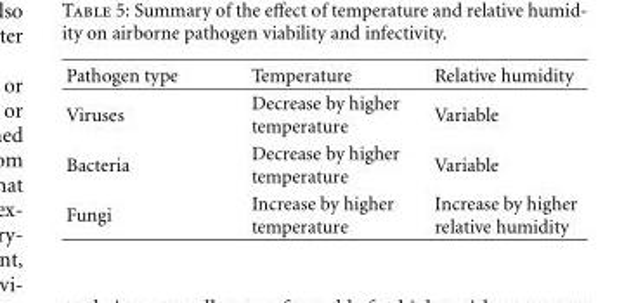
<table><thead><tr><td>Pathogen type</td><td>Temperature</td><td>Relative humidity</td></tr></thead><tbody><tr><td>Viruses</td><td>Decrease by higher temperature</td><td>Variable</td></tr><tr><td>Bacteria</td><td>Decrease by higher temperature</td><td>Variable</td></tr><tr><td>Fungi</td><td>Increase by higher temperature</td><td>Increase by higher relative humidity</td></tr></tbody></table>